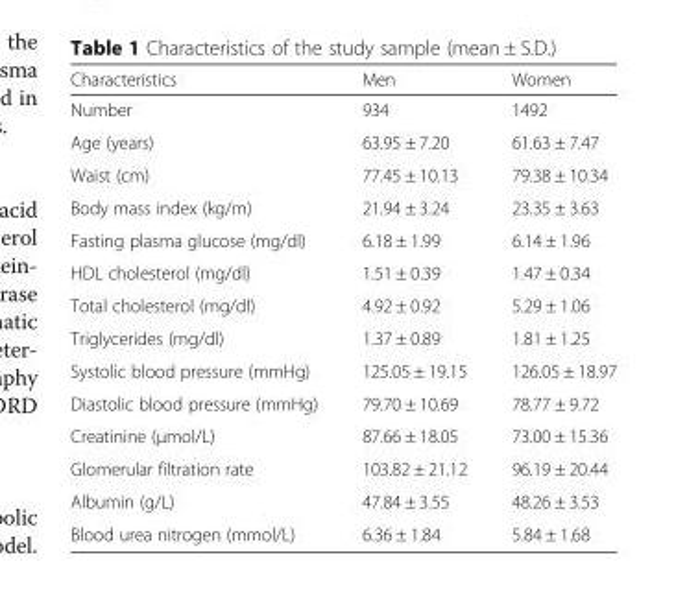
<table><thead><tr><td>Characteristics</td><td>Men</td><td>Women</td></tr></thead><tbody><tr><td>Number</td><td>934</td><td>1492</td></tr><tr><td>Age (years)</td><td>63.95 ± 7.20</td><td>61.63 ± 7.47</td></tr><tr><td>Waist (cm)</td><td>77.45 ± 10.13</td><td>79.38 ± 10.34</td></tr><tr><td>Body mass index (kg/m)</td><td>21.94 ± 3.24</td><td>23.35 ± 3.63</td></tr><tr><td>Fasting plasma glucose (mg/dl)</td><td>6.18 ± 1.99</td><td>6.14 ± 1.96</td></tr><tr><td>HDL cholesterol (mg/dl)</td><td>1.51 ± 0.39</td><td>1.47 ± 0.34</td></tr><tr><td>Total cholesterol (mg/dl)</td><td>4.92 ± 0.92</td><td>5.29 ± 1.06</td></tr><tr><td>Triglycerides (mg/dl)</td><td>1.37 ± 0.89</td><td>1.81 ± 1.25</td></tr><tr><td>Systolic blood pressure (mmHg)</td><td>125.05 ± 19.15</td><td>126.05 ± 18.97</td></tr><tr><td>Diastolic blood pressure (mmHg)</td><td>79.70 ± 10.69</td><td>78.77 ± 9.72</td></tr><tr><td>Creatinine (μmol/L)</td><td>87.66 ± 18.05</td><td>73.00 ± 15.36</td></tr><tr><td>Glomerular filtration rate</td><td>103.82 ± 21.12</td><td>96.19 ± 20.44</td></tr><tr><td>Albumin (g/L)</td><td>47.84 ± 3.55</td><td>48.26 ± 3.53</td></tr><tr><td>Blood urea nitrogen (mmol/L)</td><td>6.36 ± 1.84</td><td>5.84 ± 1.68</td></tr></tbody></table>